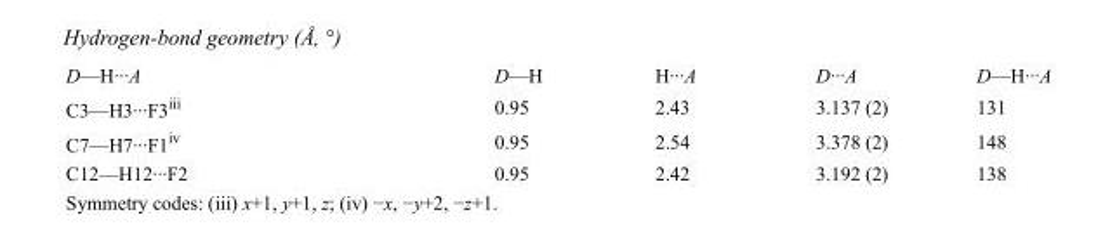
<table><tbody><tr><td>D—H···A</td><td>D—H</td><td>H···A</td><td>D···A</td><td>D—H···A</td></tr><tr><td>C3—H3···F3<sup>iii</sup></td><td>0.95</td><td>2.43</td><td>3.137 (2)</td><td>131</td></tr><tr><td>C7—H7···F1<sup>iv</sup></td><td>0.95</td><td>2.54</td><td>3.378 (2)</td><td>148</td></tr><tr><td>C12—H12···F2</td><td>0.95</td><td>2.42</td><td>3.192 (2)</td><td>138</td></tr></tbody></table>